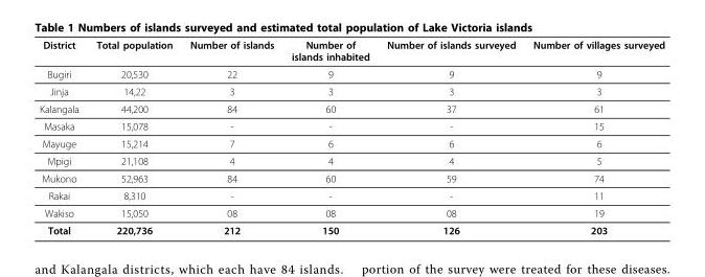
<table><thead><tr><td>District</td><td>Total population</td><td>Number of islands</td><td>Number of islands inhabited</td><td>Number of islands surveyed</td><td>Number of villages surveyed</td></tr></thead><tbody><tr><td>Bugiri</td><td>20,530</td><td>22</td><td>9</td><td>9</td><td>9</td></tr><tr><td>Jinja</td><td>14,22</td><td>3</td><td>3</td><td>3</td><td>3</td></tr><tr><td>Kalangala</td><td>44,200</td><td>84</td><td>60</td><td>37</td><td>61</td></tr><tr><td>Masaka</td><td>15,078</td><td>-</td><td>-</td><td>-</td><td>15</td></tr><tr><td>Mayuge</td><td>15,214</td><td>7</td><td>6</td><td>6</td><td>6</td></tr><tr><td>Mpigi</td><td>21,108</td><td>4</td><td>4</td><td>4</td><td>5</td></tr><tr><td>Mukono</td><td>52,963</td><td>84</td><td>60</td><td>59</td><td>74</td></tr><tr><td>Rakai</td><td>8,310</td><td>-</td><td>-</td><td>-</td><td>11</td></tr><tr><td>Wakiso</td><td>15,050</td><td>08</td><td>08</td><td>08</td><td>19</td></tr><tr><td>Total</td><td>220,736</td><td>212</td><td>150</td><td>126</td><td>203</td></tr></tbody></table>